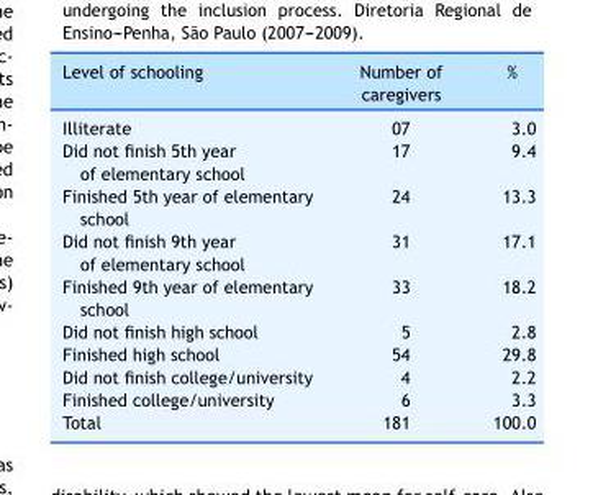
<table><thead><tr><td>Level of schooling</td><td>Number of caregivers</td><td>%</td></tr></thead><tbody><tr><td>Illiterate</td><td>07</td><td>3.0</td></tr><tr><td>Did not finish 5th year of elementary school</td><td>17</td><td>9.4</td></tr><tr><td>Finished 5th year of elementary school</td><td>24</td><td>13.3</td></tr><tr><td>Did not finish 9th year of elementary school</td><td>31</td><td>17.1</td></tr><tr><td>Finished 9th year of elementary school</td><td>33</td><td>18.2</td></tr><tr><td>Did not finish high school</td><td>5</td><td>2.8</td></tr><tr><td>Finished high school</td><td>54</td><td>29.8</td></tr><tr><td>Did not finish college/university</td><td>4</td><td>2.2</td></tr><tr><td>Finished college/university</td><td>6</td><td>3.3</td></tr><tr><td>Total</td><td>181</td><td>100.0</td></tr></tbody></table>